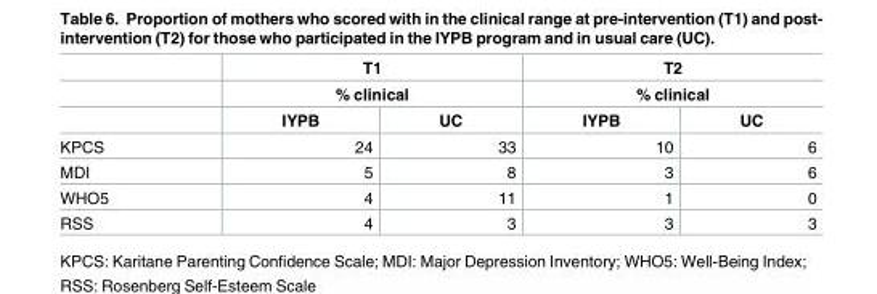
<table><thead><tr><td rowspan="3"></td><td rowspan="2" colspan="2">T1 % clinical</td><td rowspan="2" colspan="2">T2 % clinical</td></tr><tr></tr><tr><td>IYPB</td><td>UC</td><td>IYPB</td><td>UC</td></tr></thead><tbody><tr><td>KPCS</td><td>24</td><td>33</td><td>10</td><td>6</td></tr><tr><td>MDI</td><td>5</td><td>8</td><td>3</td><td>6</td></tr><tr><td>WHO5</td><td>4</td><td>11</td><td>1</td><td>0</td></tr><tr><td>RSS</td><td>4</td><td>3</td><td>3</td><td>3</td></tr></tbody></table>